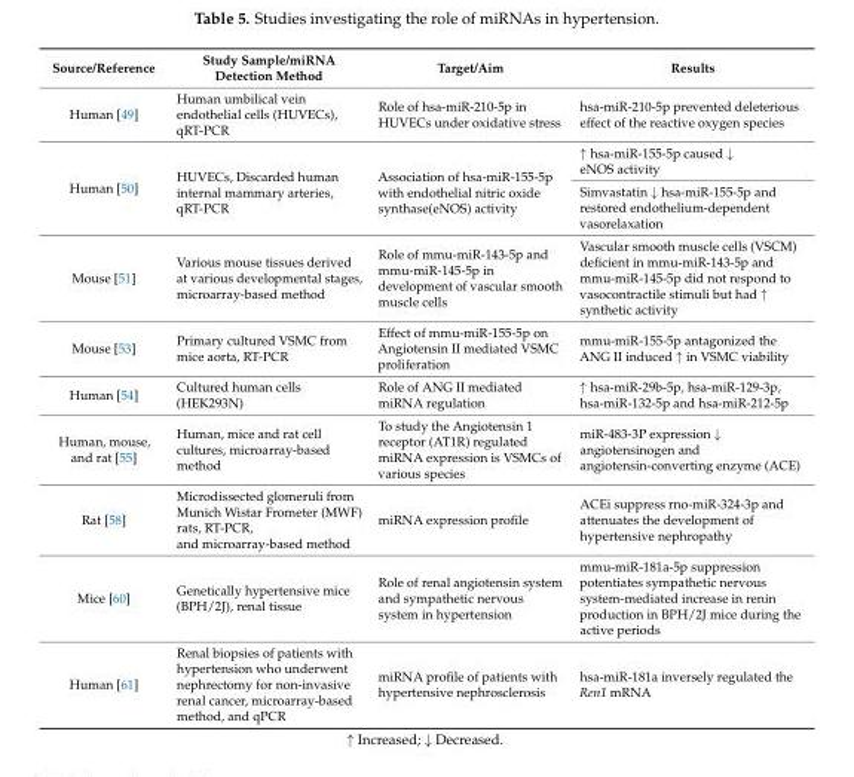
<table><thead><tr><td>Source/Reference</td><td>Study Sample/miRNA Detection Method</td><td>Target/Aim</td><td>Results</td></tr></thead><tbody><tr><td>Human [49]</td><td>Human umbilical vein endothelial cells (HUVECs), qRT-PCR</td><td>Role of hsa-miR-210-5p in HUVECs under oxidative stress</td><td>hsa-miR-210-5p prevented deleterious effect of the reactive oxygen species</td></tr><tr><td rowspan="2">Human [50]</td><td rowspan="2">HUVECs, Discarded human internal mammary arteries, qRT-PCR</td><td rowspan="2">Association of hsa-miR-155-5p with endothelial nitric oxide synthase(eNOS) activity</td><td>↑ hsa-miR-155-5p caused ↓ eNOS activity</td></tr><tr><td>Simvastatin ↓ hsa-miR-155-5p and restored endothelium-dependent vasorelaxation</td></tr><tr><td>Mouse [51]</td><td>Various mouse tissues derived at various developmental stages, microarray-based method</td><td>Role of mmu-miR-143-5p and mmu-miR-145-5p in development of vascular smooth muscle cells</td><td>Vascular smooth muscle cells (VSCM) deficient in mmu-miR-143-5p and mmu-miR-145-5p did not respond to vasocontractile stimuli but had ↑ synthetic activity</td></tr><tr><td>Mouse [53]</td><td>Primary cultured VSMC from mice aorta, RT-PCR</td><td>Effect of mmu-miR-155-5p on Angiotensin II mediated VSMC proliferation</td><td>mmu-miR-155-5p antagonized the ANG II induced ↑ in VSMC viability</td></tr><tr><td>Human [54]</td><td>Cultured human cells (HEK293N)</td><td>Role of ANG II mediated miRNA regulation</td><td>↑ hsa-miR-29b-5p, hsa-miR-129-3p, hsa-miR-132-5p and hsa-miR-212-5p</td></tr><tr><td>Human, mouse, and rat [55]</td><td>Human, mice and rat cell cultures, microarray-based method</td><td>To study the Angiotensin 1 receptor (AT1R) regulated miRNA expression is VSMCs of various species</td><td>miR-483-3P expression ↓ angiotensinogen and angiotensin-converting enzyme (ACE)</td></tr><tr><td>Rat [58]</td><td>Microdissected glomeruli from Munich Wistar Frometer (MWF) rats, RT-PCR, and microarray-based method</td><td>miRNA expression profile</td><td>ACEi suppress rno-miR-324-3p and attenuates the development of hypertensive nephropathy</td></tr><tr><td>Mice [60]</td><td>Genetically hypertensive mice (BPH/2J), renal tissue</td><td>Role of renal angiotensin system and sympathetic nervous system in hypertension</td><td>mmu-miR-181a-5p suppression potentiates sympathetic nervous system-mediated increase in renin production in BPH/2J mice during the active periods</td></tr><tr><td>Human [61]</td><td>Renal biopsies of patients with hypertension who underwent nephrectomy for non-invasive renal cancer, microarray-based method, and qPCR</td><td>miRNA profile of patients with hypertensive nephrosclerosis</td><td>hsa-miR-181a inversely regulated the Ren1 mRNA</td></tr></tbody></table>